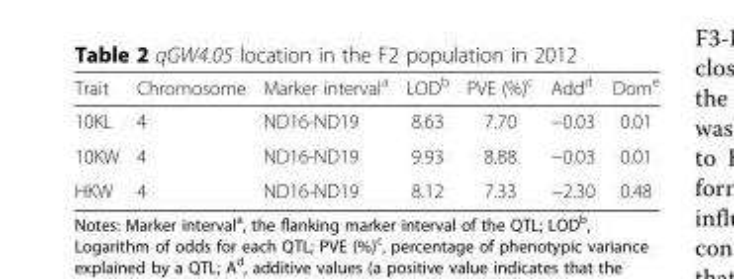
<table><thead><tr><td>Trait</td><td>Chromosome</td><td>Marker interval<sup>a</sup></td><td>LOD<sup>b</sup></td><td>PVE (%)<sup>c</sup></td><td>Add<sup>d</sup></td><td>Dom<sup>e</sup></td></tr></thead><tbody><tr><td>10KL</td><td>4</td><td>ND16-ND19</td><td>8.63</td><td>7.70</td><td>−0.03</td><td>0.01</td></tr><tr><td>10KW</td><td>4</td><td>ND16-ND19</td><td>9.93</td><td>8.88</td><td>−0.03</td><td>0.01</td></tr><tr><td>HKW</td><td>4</td><td>ND16-ND19</td><td>8.12</td><td>7.33</td><td>−2.30</td><td>0.48</td></tr></tbody></table>